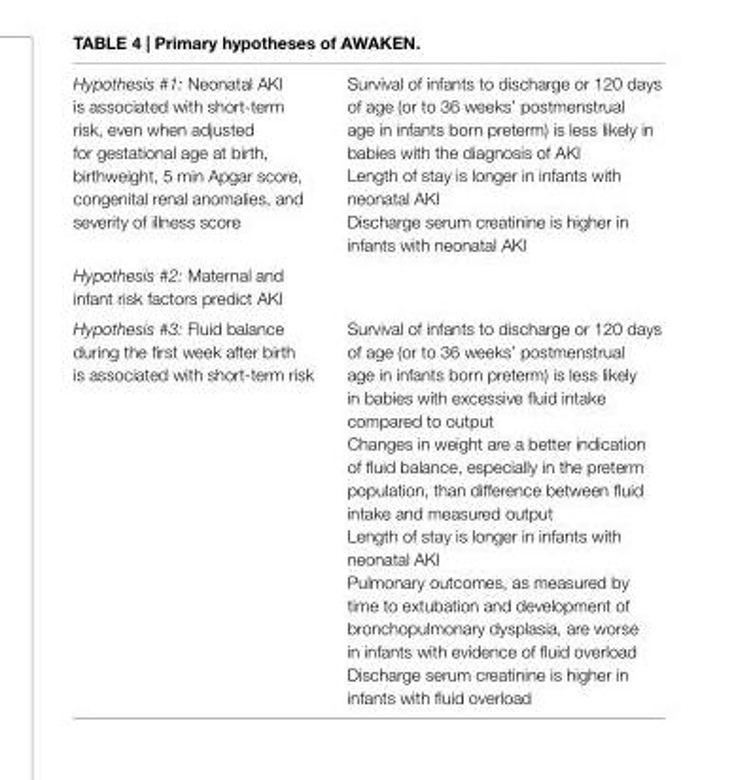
<table><tbody><tr><td rowspan="3">Hypothesis #1: Neonatal AKI is associated with short-term risk, even when adjusted for gestational age at birth, birthweight, 5 min Apgar score, congenital renal anomalies, and severity of illness score</td><td>Survival of infants to discharge or 120 days of age (or to 36 weeks’ postmenstrual age in infants born preterm) is less likely in babies with the diagnosis of AKI</td></tr><tr><td>Length of stay is longer in infants with neonatal AKI</td></tr><tr><td>Discharge serum creatinine is higher in infants with neonatal AKI</td></tr><tr><td colspan="2">Hypothesis #2: Maternal and infant risk factors predict AKI</td></tr><tr><td rowspan="5">Hypothesis #3: Fluid balance during the first week after birth is associated with short-term risk</td><td>Survival of infants to discharge or 120 days of age (or to 36 weeks’ postmenstrual age in infants born preterm) is less likely in babies with excessive fluid intake compared to output</td></tr><tr><td>Changes in weight are a better indication of fluid balance, especially in the preterm population, than difference between fluid intake and measured output</td></tr><tr><td>Length of stay is longer in infants with neonatal AKI</td></tr><tr><td>Pulmonary outcomes, as measured by time to extubation and development of bronchopulmonary dysplasia, are worse in infants with evidence of fluid overload</td></tr><tr><td>Discharge serum creatinine is higher in infants with fluid overload</td></tr></tbody></table>